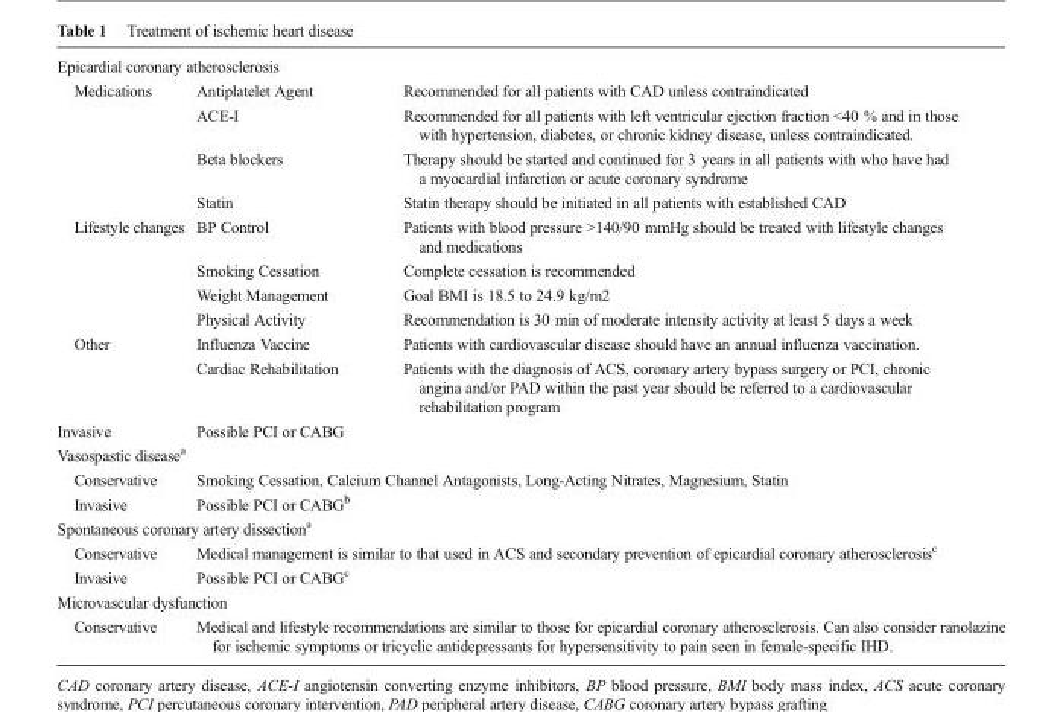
<table><tbody><tr><td colspan="3">Epicardial coronary atherosclerosis</td></tr><tr><td rowspan="4">Medications</td><td>Antiplatelet Agent</td><td>Recommended for all patients with CAD unless contraindicated</td></tr><tr><td>ACE-I</td><td>Recommended for all patients with left ventricular ejection fraction &lt;40 % and in those with hypertension, diabetes, or chronic kidney disease, unless contraindicated.</td></tr><tr><td>Beta blockers</td><td>Therapy should be started and continued for 3 years in all patients with who have had a myocardial infarction or acute coronary syndrome</td></tr><tr><td>Statin</td><td>Statin therapy should be initiated in all patients with established CAD</td></tr><tr><td rowspan="4">Lifestyle changes</td><td>BP Control</td><td>Patients with blood pressure &gt;140/90 mmHg should be treated with lifestyle changes and medications</td></tr><tr><td>Smoking Cessation</td><td>Complete cessation is recommended</td></tr><tr><td>Weight Management</td><td>Goal BMI is 18.5 to 24.9 kg/m2</td></tr><tr><td>Physical Activity</td><td>Recommendation is 30 min of moderate intensity activity at least 5 days a week</td></tr><tr><td rowspan="2">Other</td><td>Influenza Vaccine</td><td>Patients with cardiovascular disease should have an annual influenza vaccination.</td></tr><tr><td>Cardiac Rehabilitation</td><td>Patients with the diagnosis of ACS, coronary artery bypass surgery or PCI, chronic angina and/or PAD within the past year should be referred to a cardiovascular rehabilitation program</td></tr><tr><td>Invasive</td><td>Possible PCI or CABG</td><td></td></tr><tr><td colspan="3">Vasospastic disease<sup>a</sup></td></tr><tr><td>Conservative</td><td colspan="2">Smoking Cessation, Calcium Channel Antagonists, Long-Acting Nitrates, Magnesium, Statin</td></tr><tr><td>Invasive</td><td colspan="2">Possible PCI or CABG<sup>b</sup></td></tr><tr><td colspan="3">Spontaneous coronary artery dissection<sup>a</sup></td></tr><tr><td>Conservative</td><td colspan="2">Medical management is similar to that used in ACS and secondary prevention of epicardial coronary atherosclerosis<sup>c</sup></td></tr><tr><td>Invasive</td><td colspan="2">Possible PCI or CABG<sup>c</sup></td></tr><tr><td colspan="3">Microvascular dysfunction</td></tr><tr><td>Conservative</td><td colspan="2">Medical and lifestyle recommendations are similar to those for epicardial coronary atherosclerosis. Can also consider ranolazine for ischemic symptoms or tricyclic antidepressants for hypersensitivity to pain seen in female-specific IHD.</td></tr></tbody></table>